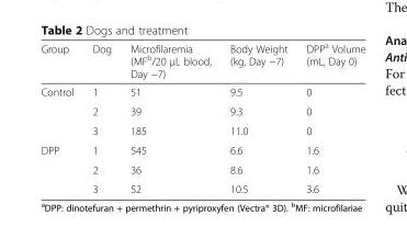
<table><thead><tr><td>Group</td><td>Dog</td><td>Microfilaremia (MF<sup>b</sup>/20 μL blood, Day −7)</td><td>Body Weight (kg, Day −7)</td><td>DPP<sup>a</sup> Volume (mL, Day 0)</td></tr></thead><tbody><tr><td rowspan="3">Control</td><td>1</td><td>51</td><td>9.5</td><td>0</td></tr><tr><td>2</td><td>39</td><td>9.3</td><td>0</td></tr><tr><td>3</td><td>185</td><td>11.0</td><td>0</td></tr><tr><td rowspan="3">DPP</td><td>1</td><td>545</td><td>6.6</td><td>1.6</td></tr><tr><td>2</td><td>36</td><td>8.6</td><td>1.6</td></tr><tr><td>3</td><td>52</td><td>10.5</td><td>3.6</td></tr></tbody></table>